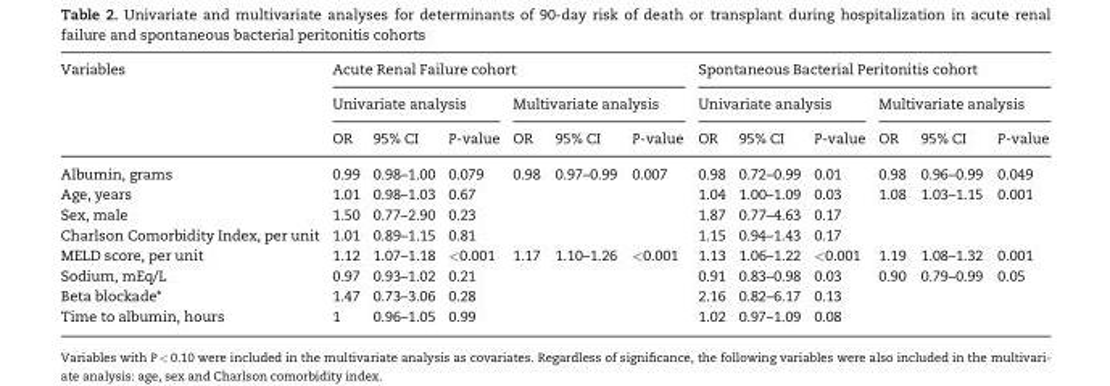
<table><thead><tr><td rowspan="3">Variables</td><td colspan="6">Acute Renal Failure cohort</td><td colspan="6">Spontaneous Bacterial Peritonitis cohort</td></tr><tr><td colspan="3">Univariate analysis</td><td colspan="3">Multivariate analysis</td><td colspan="3">Univariate analysis</td><td colspan="3">Multivariate analysis</td></tr><tr><td>OR</td><td>95% CI</td><td>P-value</td><td>OR</td><td>95% CI</td><td>P-value</td><td>OR</td><td>95% CI</td><td>P-value</td><td>OR</td><td>95% CI</td><td>P-value</td></tr></thead><tbody><tr><td>Albumin, grams</td><td>0.99</td><td>0.98–1.00</td><td>0.079</td><td>0.98</td><td>0.97–0.99</td><td>0.007</td><td>0.98</td><td>0.72–0.99</td><td>0.01</td><td>0.98</td><td>0.96–0.99</td><td>0.049</td></tr><tr><td>Age, years</td><td>1.01</td><td>0.98–1.03</td><td>0.67</td><td></td><td></td><td></td><td>1.04</td><td>1.00–1.09</td><td>0.03</td><td>1.08</td><td>1.03–1.15</td><td>0.001</td></tr><tr><td>Sex, male</td><td>1.50</td><td>0.77–2.90</td><td>0.23</td><td></td><td></td><td></td><td>1.87</td><td>0.77–4.63</td><td>0.17</td><td></td><td></td><td></td></tr><tr><td>Charlson Comorbidity Index, per unit</td><td>1.01</td><td>0.89–1.15</td><td>0.81</td><td></td><td></td><td></td><td>1.15</td><td>0.94–1.43</td><td>0.17</td><td></td><td></td><td></td></tr><tr><td>MELD score, per unit</td><td>1.12</td><td>1.07–1.18</td><td>&lt;0.001</td><td>1.17</td><td>1.10–1.26</td><td>&lt;0.001</td><td>1.13</td><td>1.06–1.22</td><td>&lt;0.001</td><td>1.19</td><td>1.08–1.32</td><td>0.001</td></tr><tr><td>Sodium, mEq/L</td><td>0.97</td><td>0.93–1.02</td><td>0.21</td><td></td><td></td><td></td><td>0.91</td><td>0.83–0.98</td><td>0.03</td><td>0.90</td><td>0.79–0.99</td><td>0.05</td></tr><tr><td>Beta blockade*</td><td>1.47</td><td>0.73–3.06</td><td>0.28</td><td></td><td></td><td></td><td>2.16</td><td>0.82–6.17</td><td>0.13</td><td></td><td></td><td></td></tr><tr><td>Time to albumin, hours</td><td>1</td><td>0.96–1.05</td><td>0.99</td><td></td><td></td><td></td><td>1.02</td><td>0.97–1.09</td><td>0.08</td><td></td><td></td><td></td></tr></tbody></table>